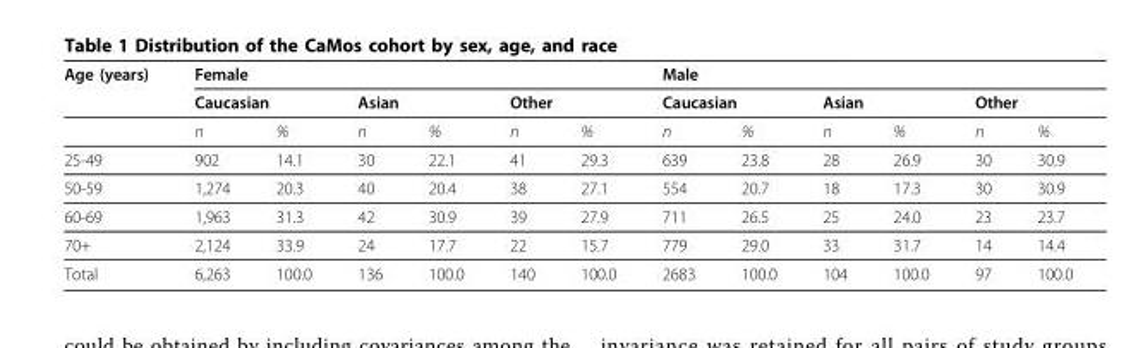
<table><thead><tr><td rowspan="3">Age (years)</td><td colspan="6">Female</td><td colspan="6">Male</td></tr><tr><td colspan="2">Caucasian</td><td colspan="2">Asian</td><td colspan="2">Other</td><td colspan="2">Caucasian</td><td colspan="2">Asian</td><td colspan="2">Other</td></tr><tr><td>n</td><td>%</td><td>n</td><td>%</td><td>n</td><td>%</td><td>n</td><td>%</td><td>n</td><td>%</td><td>n</td><td>%</td></tr></thead><tbody><tr><td>25-49</td><td>902</td><td>14.1</td><td>30</td><td>22.1</td><td>41</td><td>29.3</td><td>639</td><td>23.8</td><td>28</td><td>26.9</td><td>30</td><td>30.9</td></tr><tr><td>50-59</td><td>1,274</td><td>20.3</td><td>40</td><td>20.4</td><td>38</td><td>27.1</td><td>554</td><td>20.7</td><td>18</td><td>17.3</td><td>30</td><td>30.9</td></tr><tr><td>60-69</td><td>1,963</td><td>31.3</td><td>42</td><td>30.9</td><td>39</td><td>27.9</td><td>711</td><td>26.5</td><td>25</td><td>24.0</td><td>23</td><td>23.7</td></tr><tr><td>70+</td><td>2,124</td><td>33.9</td><td>24</td><td>17.7</td><td>22</td><td>15.7</td><td>779</td><td>29.0</td><td>33</td><td>31.7</td><td>14</td><td>14.4</td></tr><tr><td>Total</td><td>6,263</td><td>100.0</td><td>136</td><td>100.0</td><td>140</td><td>100.0</td><td>2683</td><td>100.0</td><td>104</td><td>100.0</td><td>97</td><td>100.0</td></tr></tbody></table>